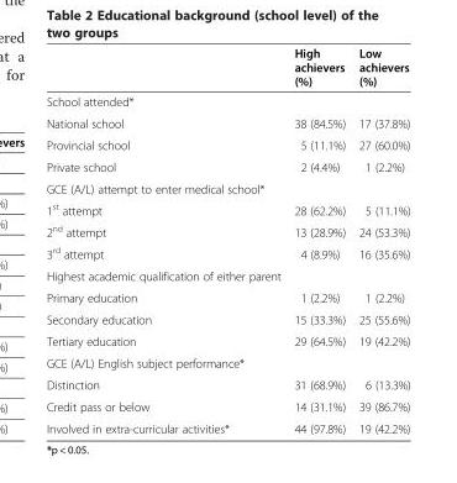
<table><thead><tr><td></td><td>High achievers (%)</td><td>Low achievers (%)</td></tr></thead><tbody><tr><td colspan="3">School attended*</td></tr><tr><td>National school</td><td>38 (84.5%)</td><td>17 (37.8%)</td></tr><tr><td>Provincial school</td><td>5 (11.1%)</td><td>27 (60.0%)</td></tr><tr><td>Private school</td><td>2 (4.4%)</td><td>1 (2.2%)</td></tr><tr><td colspan="3">GCE (A/L) attempt to enter medical school*</td></tr><tr><td>1<sup>st</sup> attempt</td><td>28 (62.2%)</td><td>5 (11.1%)</td></tr><tr><td>2<sup>nd</sup> attempt</td><td>13 (28.9%)</td><td>24 (53.3%)</td></tr><tr><td>3<sup>rd</sup> attempt</td><td>4 (8.9%)</td><td>16 (35.6%)</td></tr><tr><td colspan="3">Highest academic qualification of either parent</td></tr><tr><td>Primary education</td><td>1 (2.2%)</td><td>1 (2.2%)</td></tr><tr><td>Secondary education</td><td>15 (33.3%)</td><td>25 (55.6%)</td></tr><tr><td>Tertiary education</td><td>29 (64.5%)</td><td>19 (42.2%)</td></tr><tr><td colspan="3">GCE (A/L) English subject performance*</td></tr><tr><td>Distinction</td><td>31 (68.9%)</td><td>6 (13.3%)</td></tr><tr><td>Credit pass or below</td><td>14 (31.1%)</td><td>39 (86.7%)</td></tr><tr><td>Involved in extra-curricular activities*</td><td>44 (97.8%)</td><td>19 (42.2%)</td></tr></tbody></table>